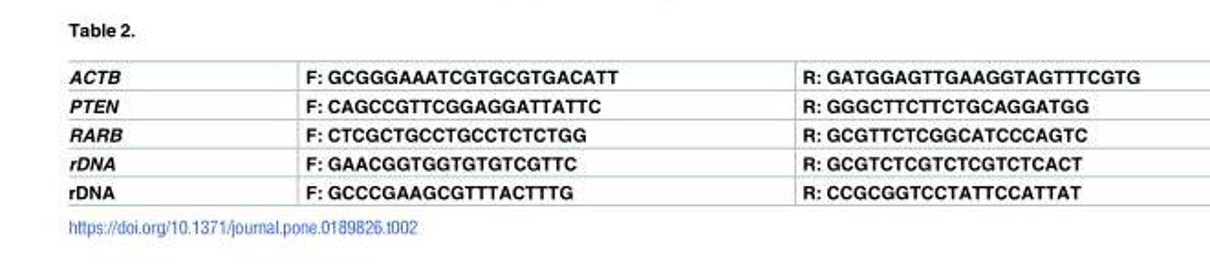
<table><tbody><tr><td>ACTB</td><td>F: GCGGGAAATCGTGCGTGACATT</td><td>R: GATGGAGTTGAAGGTAGTTTCGTG</td></tr><tr><td>PTEN</td><td>F: CAGCCGTTCGGAGGATTATTC</td><td>R: GGGCTTCTTCTGCAGGATGG</td></tr><tr><td>RARB</td><td>F: CTCGCTGCCTGCCTCTCTGG</td><td>R: GCGTTCTCGGCATCCCAGTC</td></tr><tr><td>rDNA</td><td>F: GAACGGTGGTGTGTCGTTC</td><td>R: GCGTCTCGTCTCGTCTCACT</td></tr><tr><td>rDNA</td><td>F: GCCCGAAGCGTTTACTTTG</td><td>R: CCGCGGTCCTATTCCATTAT</td></tr></tbody></table>